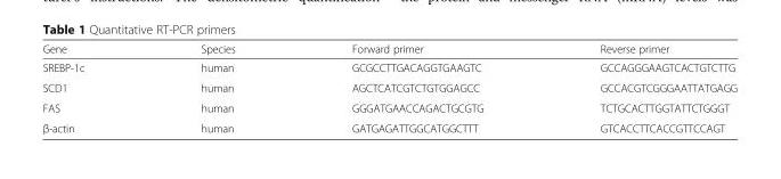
<table><thead><tr><td>Gene</td><td>Species</td><td>Forward primer</td><td>Reverse primer</td></tr></thead><tbody><tr><td>SREBP-1c</td><td>human</td><td>GCGCCTTGACAGGTGAAGTC</td><td>GCCAGGGAAGTCACTGTCTTG</td></tr><tr><td>SCD1</td><td>human</td><td>AGCTCATCGTCTGTGGAGCC</td><td>GCCACGTCGGGAATTATGAGG</td></tr><tr><td>FAS</td><td>human</td><td>GGGATGAACCAGACTGCGTG</td><td>TCTGCACTTGGTATTCTGGGT</td></tr><tr><td>β-actin</td><td>human</td><td>GATGAGATTGGCATGGCTTT</td><td>GTCACCTTCACCGTTCCAGT</td></tr></tbody></table>